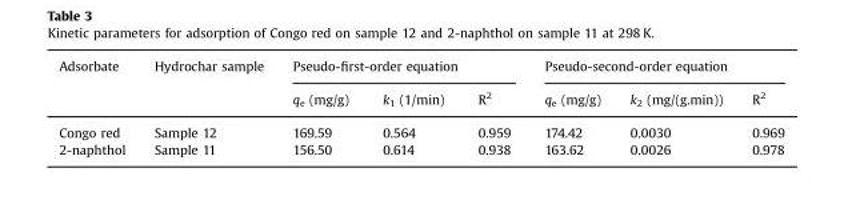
<table><thead><tr><td rowspan="2">Adsorbate</td><td rowspan="2">Hydrochar sample</td><td colspan="3">Pseudo-first-order equation</td><td colspan="3">Pseudo-second-order equation</td></tr><tr><td>q<sub>e</sub> (mg/g)</td><td>k<sub>1</sub> (1/min)</td><td>R<sup>2</sup></td><td>q<sub>e</sub> (mg/g)</td><td>k<sub>2</sub> (mg/(g.min))</td><td>R<sup>2</sup></td></tr></thead><tbody><tr><td>Congo red</td><td>Sample 12</td><td>169.59</td><td>0.564</td><td>0.959</td><td>174.42</td><td>0.0030</td><td>0.969</td></tr><tr><td>2-naphthol</td><td>Sample 11</td><td>156.50</td><td>0.614</td><td>0.938</td><td>163.62</td><td>0.0026</td><td>0.978</td></tr></tbody></table>